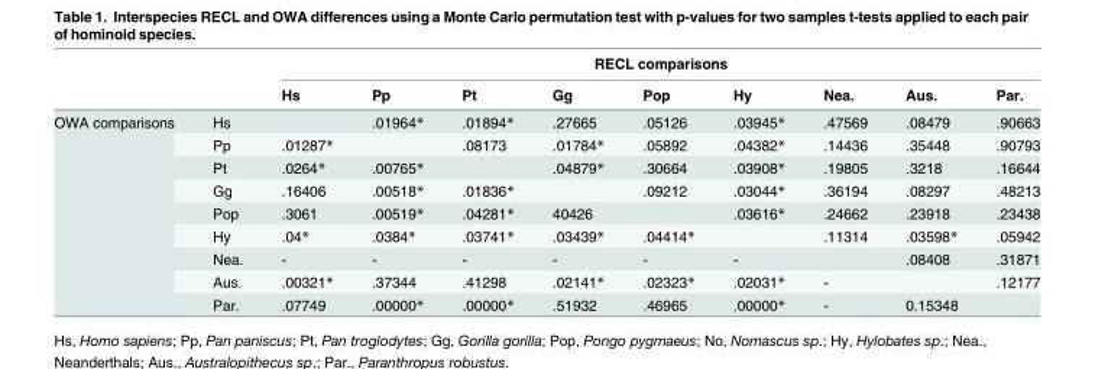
<table><thead><tr><td rowspan="2"></td><td rowspan="2"></td><td colspan="9">RECL comparisons</td></tr><tr><td>Hs</td><td>Pp</td><td>Pt</td><td>Gg</td><td>Pop</td><td>Hy</td><td>Nea.</td><td>Aus.</td><td>Par.</td></tr></thead><tbody><tr><td rowspan="9">OWA comparisons</td><td>Hs</td><td></td><td>.01964*</td><td>.01894*</td><td>.27665</td><td>.05126</td><td>.03945*</td><td>.47569</td><td>.08479</td><td>.90663</td></tr><tr><td>Pp</td><td>.01287*</td><td></td><td>.08173</td><td>.01784*</td><td>.05892</td><td>.04382*</td><td>.14436</td><td>.35448</td><td>.90793</td></tr><tr><td>Pt</td><td>.0264*</td><td>.00765*</td><td></td><td>.04879*</td><td>.30664</td><td>.03908*</td><td>.19805</td><td>.3218</td><td>.16644</td></tr><tr><td>Gg</td><td>.16406</td><td>.00518*</td><td>.01836*</td><td></td><td>.09212</td><td>.03044*</td><td>.36194</td><td>.08297</td><td>.48213</td></tr><tr><td>Pop</td><td>.3061</td><td>.00519*</td><td>.04281*</td><td>40426</td><td></td><td>.03616*</td><td>.24662</td><td>.23918</td><td>.23438</td></tr><tr><td>Hy</td><td>.04*</td><td>.0384*</td><td>.03741*</td><td>.03439*</td><td>.04414*</td><td></td><td>.11314</td><td>.03598*</td><td>.05942</td></tr><tr><td>Nea.</td><td>-</td><td>-</td><td>-</td><td>-</td><td>-</td><td>-</td><td></td><td>.08408</td><td>.31871</td></tr><tr><td>Aus.</td><td>.00321*</td><td>.37344</td><td>.41298</td><td>.02141*</td><td>.02323*</td><td>.02031*</td><td>-</td><td></td><td>.12177</td></tr><tr><td>Par.</td><td>.07749</td><td>.00000*</td><td>.00000*</td><td>.51932</td><td>.46965</td><td>.00000*</td><td>-</td><td>0.15348</td><td></td></tr></tbody></table>